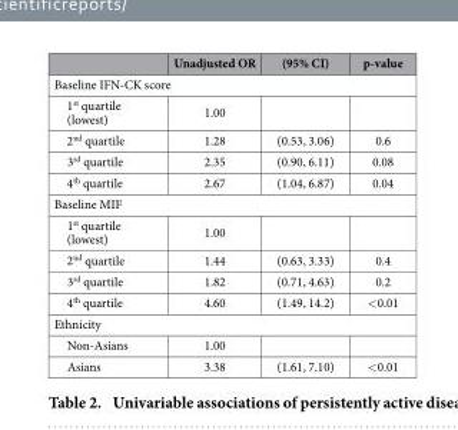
<table><thead><tr><td></td><td>Unadjusted OR</td><td>(95% CI)</td><td>p-value</td></tr></thead><tbody><tr><td colspan="4">Baseline IFN-CK score</td></tr><tr><td>1<sup>st</sup> quartile (lowest)</td><td>1.00</td><td></td><td></td></tr><tr><td>2<sup>nd</sup> quartile</td><td>1.28</td><td>(0.53, 3.06)</td><td>0.6</td></tr><tr><td>3<sup>rd</sup> quartile</td><td>2.35</td><td>(0.90, 6.11)</td><td>0.08</td></tr><tr><td>4<sup>th</sup> quartile</td><td>2.67</td><td>(1.04, 6.87)</td><td>0.04</td></tr><tr><td colspan="4">Baseline MIF</td></tr><tr><td>1<sup>st</sup> quartile (lowest)</td><td>1.00</td><td></td><td></td></tr><tr><td>2<sup>nd</sup> quartile</td><td>1.44</td><td>(0.63, 3.33)</td><td>0.4</td></tr><tr><td>3<sup>rd</sup> quartile</td><td>1.82</td><td>(0.71, 4.63)</td><td>0.2</td></tr><tr><td>4<sup>th</sup> quartile</td><td>4.60</td><td>(1.49, 14.2)</td><td>&lt; 0.01</td></tr><tr><td colspan="4">Ethnicity</td></tr><tr><td>Non-Asians</td><td>1.00</td><td></td><td></td></tr><tr><td>Asians</td><td>3.38</td><td>(1.61, 7.10)</td><td>&lt; 0.01</td></tr></tbody></table>